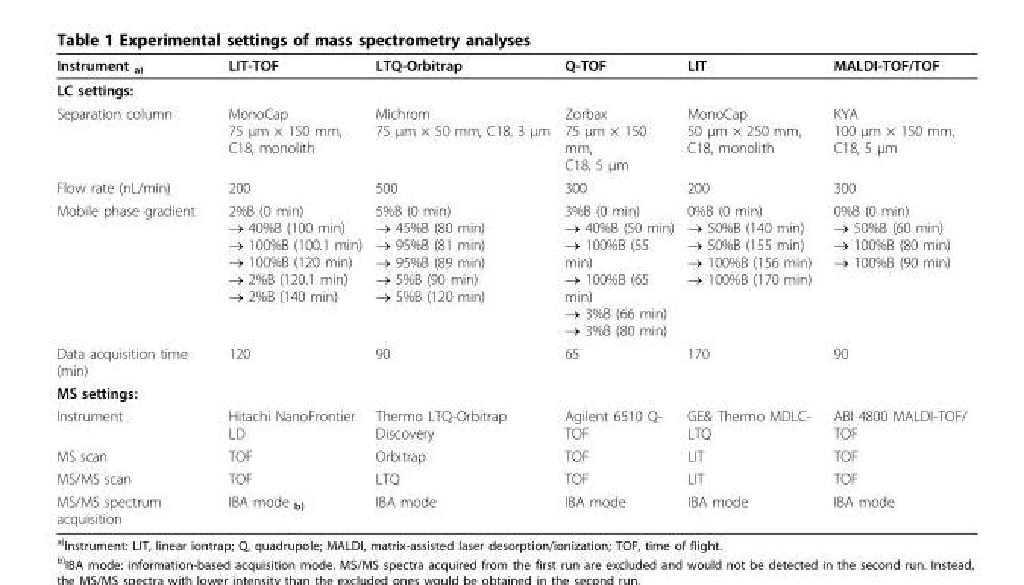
<table><thead><tr><td>Instrument <sub>a)</sub></td><td>LIT-TOF</td><td>LTQ-Orbitrap</td><td>Q-TOF</td><td>LIT</td><td>MALDI-TOF/TOF</td></tr></thead><tbody><tr><td colspan="6">LC settings:</td></tr><tr><td>Separation column</td><td>MonoCap 75 μm × 150 mm, C18, monolith</td><td>Michrom 75 μm × 50 mm, C18, 3 μm</td><td>Zorbax 75 μm × 150 mm, C18, 5 μm</td><td>MonoCap 50 μm × 250 mm, C18, monolith</td><td>KYA 100 μm × 150 mm, C18, 5 μm</td></tr><tr><td>Flow rate (nL/min)</td><td>200</td><td>500</td><td>300</td><td>200</td><td>300</td></tr><tr><td>Mobile phase gradient</td><td>2%B (0 min) → 40%B (100 min) → 100%B (100.1 min) → 100%B (120 min) → 2%B (120.1 min) → 2%B (140 min)</td><td>5%B (0 min) → 45%B (80 min) → 95%B (81 min) → 95%B (89 min) → 5%B (90 min) → 5%B (120 min)</td><td>3%B (0 min) → 40%B (50 min) → 100%B (55 min) → 100%B (65 min) → 3%B (66 min) → 3%B (80 min)</td><td>0%B (0 min) → 50%B (140 min) → 50%B (155 min) → 100%B (156 min) → 100%B (170 min)</td><td>0%B (0 min) → 50%B (60 min) → 100%B (80 min) → 100%B (90 min)</td></tr><tr><td>Data acquisition time (min)</td><td>120</td><td>90</td><td>65</td><td>170</td><td>90</td></tr><tr><td colspan="6">MS settings:</td></tr><tr><td>Instrument</td><td>Hitachi NanoFrontier LD</td><td>Thermo LTQ-Orbitrap Discovery</td><td>Agilent 6510 Q- TOF</td><td>GE&amp; Thermo MDLC- LTQ</td><td>ABI 4800 MALDI-TOF/ TOF</td></tr><tr><td>MS scan</td><td>TOF</td><td>Orbitrap</td><td>TOF</td><td>LIT</td><td>TOF</td></tr><tr><td>MS/MS scan</td><td>TOF</td><td>LTQ</td><td>TOF</td><td>LIT</td><td>TOF</td></tr><tr><td>MS/MS spectrum acquisition</td><td>IBA mode <sub>b)</sub></td><td>IBA mode</td><td>IBA mode</td><td>IBA mode</td><td>IBA mode</td></tr></tbody></table>